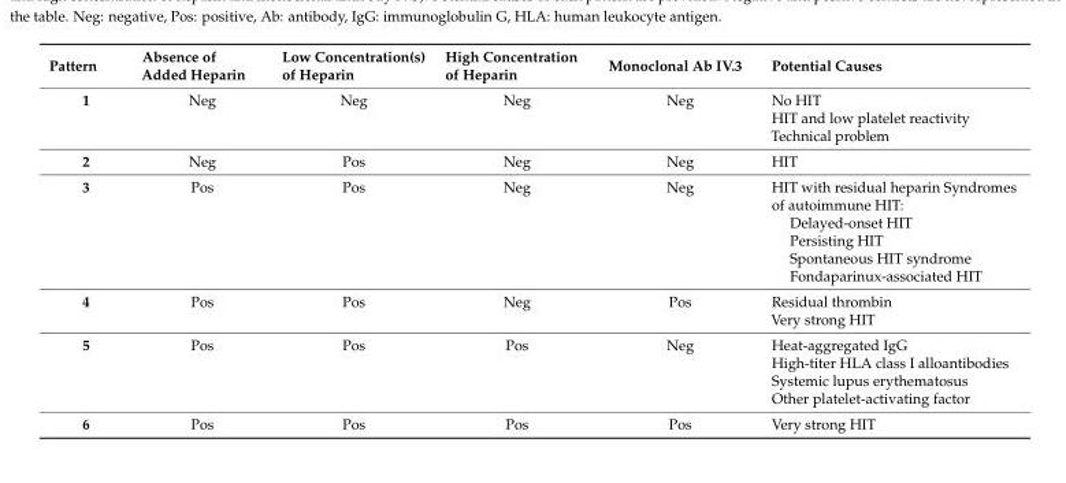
<table><thead><tr><td>Pattern</td><td>Absence of Added Heparin</td><td>Low Concentration(s) of Heparin</td><td>High Concentration of Heparin</td><td>Monoclonal Ab IV.3</td><td>Potential Causes</td></tr></thead><tbody><tr><td>1</td><td>Neg</td><td>Neg</td><td>Neg</td><td>Neg</td><td>No HIT HIT and low platelet reactivity Technical problem</td></tr><tr><td>2</td><td>Neg</td><td>Pos</td><td>Neg</td><td>Neg</td><td>HIT</td></tr><tr><td>3</td><td>Pos</td><td>Pos</td><td>Neg</td><td>Neg</td><td>HIT with residual heparin Syndromes of autoimmune HIT: Delayed-onset HIT Persisting HIT Spontaneous HIT syndrome Fondaparinux-associated HIT</td></tr><tr><td>4</td><td>Pos</td><td>Pos</td><td>Neg</td><td>Pos</td><td>Residual thrombin Very strong HIT</td></tr><tr><td>5</td><td>Pos</td><td>Pos</td><td>Pos</td><td>Neg</td><td>Heat-aggregated IgG High-titer HLA class I alloantibodies Systemic lupus erythematosus Other platelet-activating factor</td></tr><tr><td>6</td><td>Pos</td><td>Pos</td><td>Pos</td><td>Pos</td><td>Very strong HIT</td></tr></tbody></table>